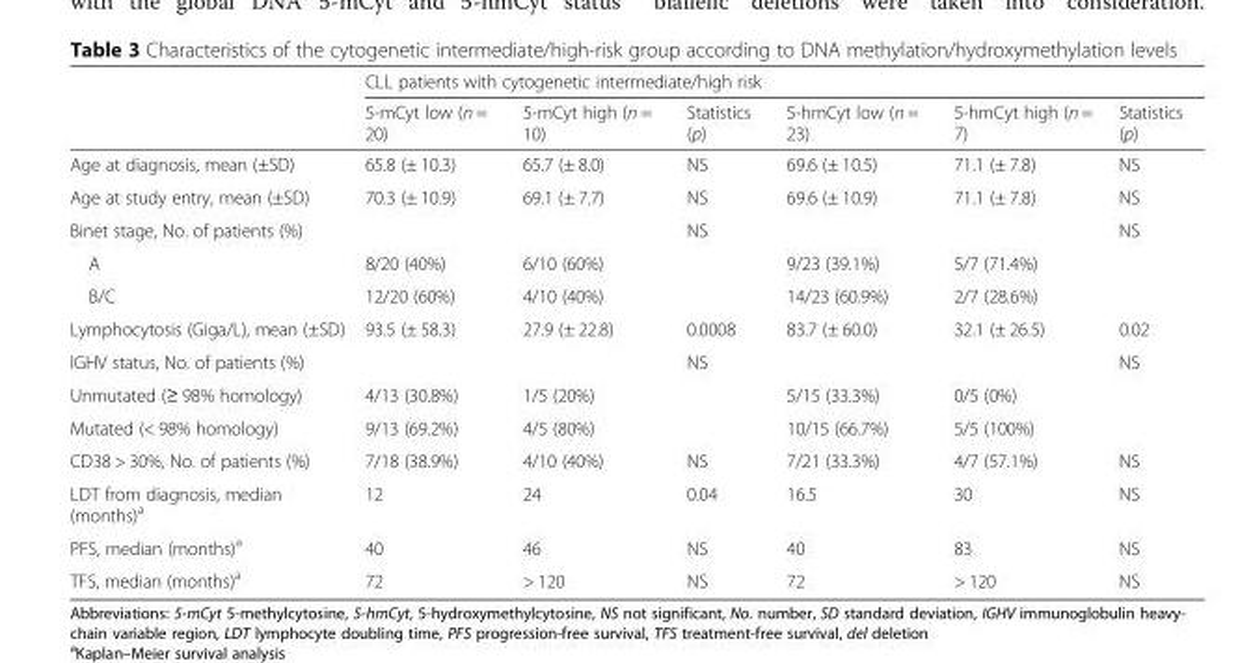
<table><thead><tr><td rowspan="2"></td><td colspan="6">CLL patients with cytogenetic intermediate/high risk</td></tr><tr><td>5-mCyt low (n = 20)</td><td>5-mCyt high (n = 10)</td><td>Statistics (p)</td><td>5-hmCyt low (n = 23)</td><td>5-hmCyt high (n = 7)</td><td>Statistics (p)</td></tr></thead><tbody><tr><td>Age at diagnosis, mean (±SD)</td><td>65.8 (± 10.3)</td><td>65.7 (± 8.0)</td><td>NS</td><td>69.6 (± 10.5)</td><td>71.1 (± 7.8)</td><td>NS</td></tr><tr><td>Age at study entry, mean (±SD)</td><td>70.3 (± 10.9)</td><td>69.1 (± 7.7)</td><td>NS</td><td>69.6 (± 10.9)</td><td>71.1 (± 7.8)</td><td>NS</td></tr><tr><td>Binet stage, No. of patients (%)</td><td></td><td></td><td>NS</td><td></td><td></td><td>NS</td></tr><tr><td>A</td><td>8/20 (40%)</td><td>6/10 (60%)</td><td></td><td>9/23 (39.1%)</td><td>5/7 (71.4%)</td><td></td></tr><tr><td>B/C</td><td>12/20 (60%)</td><td>4/10 (40%)</td><td></td><td>14/23 (60.9%)</td><td>2/7 (28.6%)</td><td></td></tr><tr><td>Lymphocytosis (Giga/L), mean (±SD)</td><td>93.5 (± 58.3)</td><td>27.9 (± 22.8)</td><td>0.0008</td><td>83.7 (± 60.0)</td><td>32.1 (± 26.5)</td><td>0.02</td></tr><tr><td>IGHV status, No. of patients (%)</td><td></td><td></td><td>NS</td><td></td><td></td><td>NS</td></tr><tr><td>Unmutated (≥ 98% homology)</td><td>4/13 (30.8%)</td><td>1/5 (20%)</td><td></td><td>5/15 (33.3%)</td><td>0/5 (0%)</td><td></td></tr><tr><td>Mutated (&lt; 98% homology)</td><td>9/13 (69.2%)</td><td>4/5 (80%)</td><td></td><td>10/15 (66.7%)</td><td>5/5 (100%)</td><td></td></tr><tr><td>CD38 &gt; 30%, No. of patients (%)</td><td>7/18 (38.9%)</td><td>4/10 (40%)</td><td>NS</td><td>7/21 (33.3%)</td><td>4/7 (57.1%)</td><td>NS</td></tr><tr><td>LDT from diagnosis, median (months)<sup>a</sup></td><td>12</td><td>24</td><td>0.04</td><td>16.5</td><td>30</td><td>NS</td></tr><tr><td>PFS, median (months)<sup>a</sup></td><td>40</td><td>46</td><td>NS</td><td>40</td><td>83</td><td>NS</td></tr><tr><td>TFS, median (months)<sup>a</sup></td><td>72</td><td>&gt; 120</td><td>NS</td><td>72</td><td>&gt; 120</td><td>NS</td></tr></tbody></table>